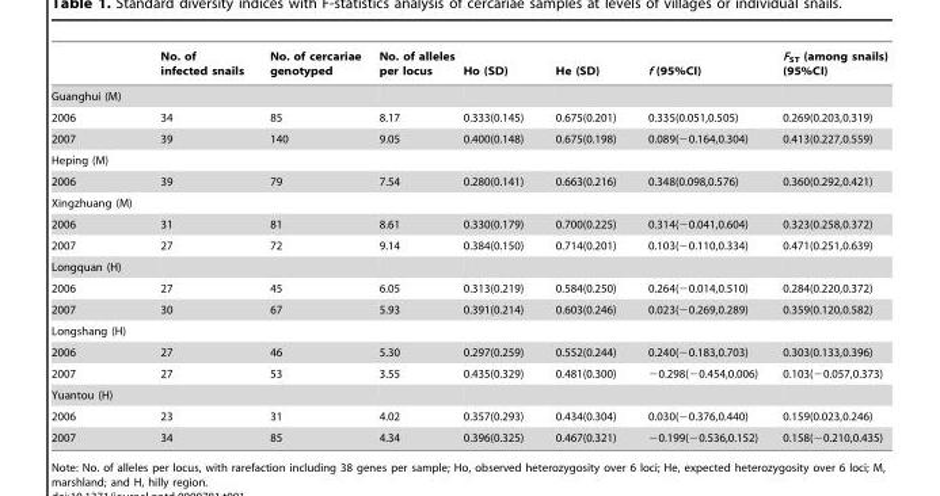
<table><thead><tr><td></td><td>No. of infected snails</td><td>No. of cercariae genotyped</td><td>No. of alleles per locus</td><td>Ho (SD)</td><td>He (SD)</td><td>f (95%CI)</td><td>F<sub>ST</sub> (among snails) (95%CI)</td></tr></thead><tbody><tr><td colspan="8">Guanghui (M)</td></tr><tr><td>2006</td><td>34</td><td>85</td><td>8.17</td><td>0.333(0.145)</td><td>0.675(0.201)</td><td>0.335(0.051,0.505)</td><td>0.269(0.203,0.319)</td></tr><tr><td>2007</td><td>39</td><td>140</td><td>9.05</td><td>0.400(0.148)</td><td>0.675(0.198)</td><td>0.089(−0.164,0.304)</td><td>0.413(0.227,0.559)</td></tr><tr><td colspan="8">Heping (M)</td></tr><tr><td>2006</td><td>39</td><td>79</td><td>7.54</td><td>0.280(0.141)</td><td>0.663(0.216)</td><td>0.348(0.098,0.576)</td><td>0.360(0.292,0.421)</td></tr><tr><td colspan="8">Xingzhuang (M)</td></tr><tr><td>2006</td><td>31</td><td>81</td><td>8.61</td><td>0.330(0.179)</td><td>0.700(0.225)</td><td>0.314(−0.041,0.604)</td><td>0.323(0.258,0.372)</td></tr><tr><td>2007</td><td>27</td><td>72</td><td>9.14</td><td>0.384(0.150)</td><td>0.714(0.201)</td><td>0.103(−0.110,0.334)</td><td>0.471(0.251,0.639)</td></tr><tr><td colspan="8">Longquan (H)</td></tr><tr><td>2006</td><td>27</td><td>45</td><td>6.05</td><td>0.313(0.219)</td><td>0.584(0.250)</td><td>0.264(−0.014,0.510)</td><td>0.284(0.220,0.372)</td></tr><tr><td>2007</td><td>30</td><td>67</td><td>5.93</td><td>0.391(0.214)</td><td>0.603(0.246)</td><td>0.023(−0.269,0.289)</td><td>0.359(0.120,0.582)</td></tr><tr><td colspan="8">Longshang (H)</td></tr><tr><td>2006</td><td>27</td><td>46</td><td>5.30</td><td>0.297(0.259)</td><td>0.552(0.244)</td><td>0.240(−0.183,0.703)</td><td>0.303(0.133,0.396)</td></tr><tr><td>2007</td><td>27</td><td>53</td><td>3.55</td><td>0.435(0.329)</td><td>0.481(0.300)</td><td>−0.298(−0.454,0.006)</td><td>0.103(−0.057,0.373)</td></tr><tr><td colspan="8">Yuantou (H)</td></tr><tr><td>2006</td><td>23</td><td>31</td><td>4.02</td><td>0.357(0.293)</td><td>0.434(0.304)</td><td>0.030(−0.376,0.440)</td><td>0.159(0.023,0.246)</td></tr><tr><td>2007</td><td>34</td><td>85</td><td>4.34</td><td>0.396(0.325)</td><td>0.467(0.321)</td><td>−0.199(−0.536,0.152)</td><td>0.158(−0.210,0.435)</td></tr></tbody></table>